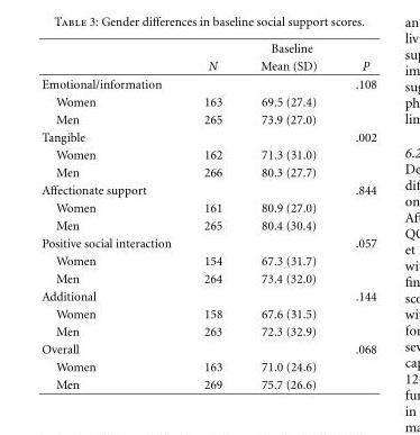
<table><thead><tr><td rowspan="2"></td><td colspan="3">Baseline</td></tr><tr><td>N</td><td>Mean (SD)</td><td>P</td></tr></thead><tbody><tr><td>Emotional/information</td><td></td><td></td><td>.108</td></tr><tr><td>Women</td><td>163</td><td>69.5 (27.4)</td><td></td></tr><tr><td>Men</td><td>265</td><td>73.9 (27.0)</td><td></td></tr><tr><td>Tangible</td><td></td><td></td><td>.002</td></tr><tr><td>Women</td><td>162</td><td>71.3 (31.0)</td><td></td></tr><tr><td>Men</td><td>266</td><td>80.3 (27.7)</td><td></td></tr><tr><td>Affectionate support</td><td></td><td></td><td>.844</td></tr><tr><td>Women</td><td>161</td><td>80.9 (27.0)</td><td></td></tr><tr><td>Men</td><td>265</td><td>80.4 (30.4)</td><td></td></tr><tr><td>Positive social interaction</td><td></td><td></td><td>.057</td></tr><tr><td>Women</td><td>154</td><td>67.3 (31.7)</td><td></td></tr><tr><td>Men</td><td>264</td><td>73.4 (32.0)</td><td></td></tr><tr><td>Additional</td><td></td><td></td><td>.144</td></tr><tr><td>Women</td><td>158</td><td>67.6 (31.5)</td><td></td></tr><tr><td>Men</td><td>263</td><td>72.3 (32.9)</td><td></td></tr><tr><td>Overall</td><td></td><td></td><td>.068</td></tr><tr><td>Women</td><td>163</td><td>71.0 (24.6)</td><td></td></tr><tr><td>Men</td><td>269</td><td>75.7 (26.6)</td><td></td></tr></tbody></table>